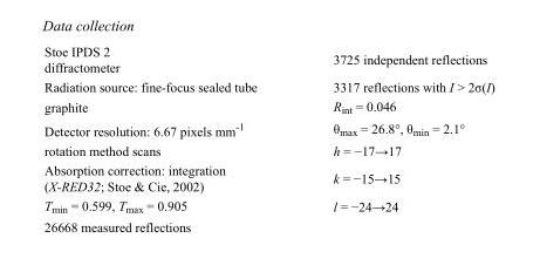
<table><tbody><tr><td>Stoe IPDS 2 diffractometer</td><td>3725 independent reflections</td></tr><tr><td>Radiation source: fine-focus sealed tube</td><td>3317 reflections with I &gt; 2σ(I)</td></tr><tr><td>graphite</td><td>R<sub>int</sub> = 0.046</td></tr><tr><td>Detector resolution: 6.67 pixels mm<sup>-1</sup></td><td>θ<sub>max</sub> = 26.8°, θ<sub>min</sub> = 2.1°</td></tr><tr><td>rotation method scans</td><td>h = −17→17</td></tr><tr><td>Absorption correction: integration (X-RED32; Stoe &amp; Cie, 2002)</td><td>k = −15→15</td></tr><tr><td>T<sub>min</sub> = 0.599, T<sub>max</sub> = 0.905</td><td>l = −24→24</td></tr><tr><td>26668 measured reflections</td><td></td></tr></tbody></table>